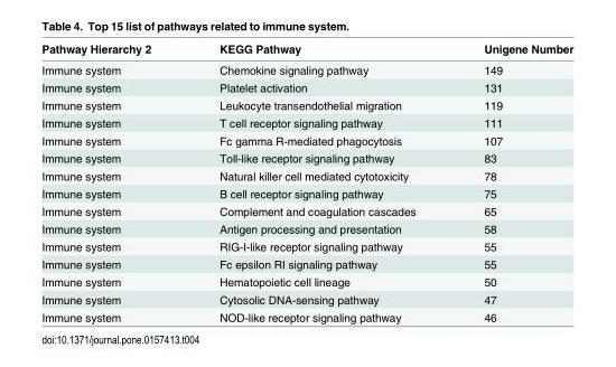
<table><thead><tr><td>Pathway Hierarchy 2</td><td>KEGG Pathway</td><td>Unigene Number</td></tr></thead><tbody><tr><td>Immune system</td><td>Chemokine signaling pathway</td><td>149</td></tr><tr><td>Immune system</td><td>Platelet activation</td><td>131</td></tr><tr><td>Immune system</td><td>Leukocyte transendothelial migration</td><td>119</td></tr><tr><td>Immune system</td><td>T cell receptor signaling pathway</td><td>111</td></tr><tr><td>Immune system</td><td>Fc gamma R-mediated phagocytosis</td><td>107</td></tr><tr><td>Immune system</td><td>Toll-like receptor signaling pathway</td><td>83</td></tr><tr><td>Immune system</td><td>Natural killer cell mediated cytotoxicity</td><td>78</td></tr><tr><td>Immune system</td><td>B cell receptor signaling pathway</td><td>75</td></tr><tr><td>Immune system</td><td>Complement and coagulation cascades</td><td>65</td></tr><tr><td>Immune system</td><td>Antigen processing and presentation</td><td>58</td></tr><tr><td>Immune system</td><td>RIG-I-like receptor signaling pathway</td><td>55</td></tr><tr><td>Immune system</td><td>Fc epsilon RI signaling pathway</td><td>55</td></tr><tr><td>Immune system</td><td>Hematopoietic cell lineage</td><td>50</td></tr><tr><td>Immune system</td><td>Cytosolic DNA-sensing pathway</td><td>47</td></tr><tr><td>Immune system</td><td>NOD-like receptor signaling pathway</td><td>46</td></tr></tbody></table>